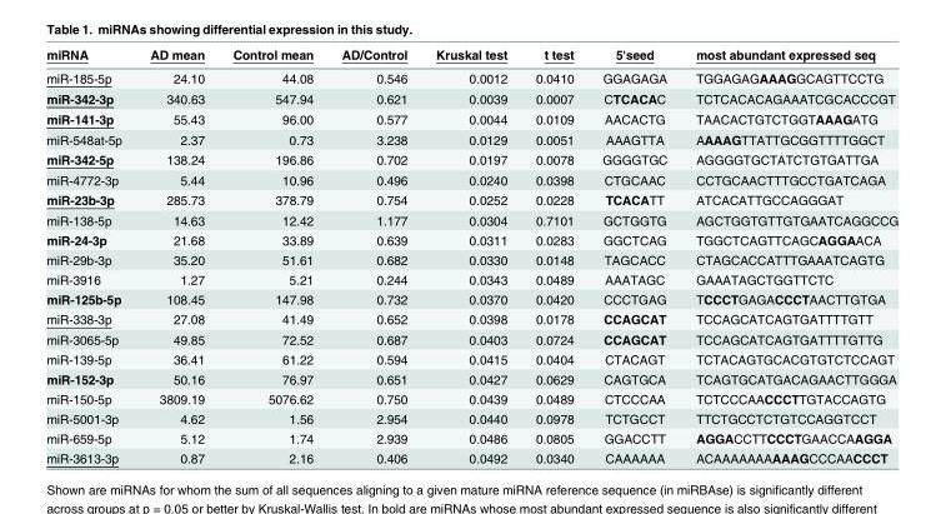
<table><thead><tr><td>miRNA</td><td>AD mean</td><td>Control mean</td><td>AD/Control</td><td>Kruskal test</td><td>t test</td><td>5&#x27;seed</td><td>most abundant expressed seq</td></tr></thead><tbody><tr><td>miR-185-5p</td><td>24.10</td><td>44.08</td><td>0.546</td><td>0.0012</td><td>0.0410</td><td>GGAGAGA</td><td>TGGAGAGAAAGGCAGTTCCTG</td></tr><tr><td>miR-342-3p</td><td>340.63</td><td>547.94</td><td>0.621</td><td>0.0039</td><td>0.0007</td><td>CTCACAC</td><td>TCTCACACAGAAATCGCACCCGT</td></tr><tr><td>miR-141-3p</td><td>55.43</td><td>96.00</td><td>0.577</td><td>0.0044</td><td>0.0109</td><td>AACACTG</td><td>TAACACTGTCTGGTAAAGATG</td></tr><tr><td>miR-548at-5p</td><td>2.37</td><td>0.73</td><td>3.238</td><td>0.0129</td><td>0.0051</td><td>AAAGTTA</td><td>AAAAGTTATTGCGGTTTTGGCT</td></tr><tr><td>miR-342-5p</td><td>138.24</td><td>196.86</td><td>0.702</td><td>0.0197</td><td>0.0078</td><td>GGGGTGC</td><td>AGGGGTGCTATCTGTGATTGA</td></tr><tr><td>miR-4772-3p</td><td>5.44</td><td>10.96</td><td>0.496</td><td>0.0240</td><td>0.0398</td><td>CTGCAAC</td><td>CCTGCAACTTTGCCTGATCAGA</td></tr><tr><td>miR-23b-3p</td><td>285.73</td><td>378.79</td><td>0.754</td><td>0.0252</td><td>0.0228</td><td>TCACATT</td><td>ATCACATTGCCAGGGAT</td></tr><tr><td>miR-138-5p</td><td>14.63</td><td>12.42</td><td>1.177</td><td>0.0304</td><td>0.7101</td><td>GCTGGTG</td><td>AGCTGGTGTTGTGAATCAGGCCG</td></tr><tr><td>miR-24-3p</td><td>21.68</td><td>33.89</td><td>0.639</td><td>0.0311</td><td>0.0283</td><td>GGCTCAG</td><td>TGGCTCAGTTCAGCAGGAACA</td></tr><tr><td>miR-29b-3p</td><td>35.20</td><td>51.61</td><td>0.682</td><td>0.0330</td><td>0.0148</td><td>TAGCACC</td><td>CTAGCACCATTTGAAATCAGTG</td></tr><tr><td>miR-3916</td><td>1.27</td><td>5.21</td><td>0.244</td><td>0.0343</td><td>0.0489</td><td>AAATAGC</td><td>GAAATAGCTGGTTCTC</td></tr><tr><td>miR-125b-5p</td><td>108.45</td><td>147.98</td><td>0.732</td><td>0.0370</td><td>0.0420</td><td>CCCTGAG</td><td>TCCCTGAGACCCTAACTTGTGA</td></tr><tr><td>miR-338-3p</td><td>27.08</td><td>41.49</td><td>0.652</td><td>0.0398</td><td>0.0178</td><td>CCAGCAT</td><td>TCCAGCATCAGTGATTTTGTT</td></tr><tr><td>miR-3065-5p</td><td>49.85</td><td>72.52</td><td>0.687</td><td>0.0403</td><td>0.0724</td><td>CCAGCAT</td><td>TCCAGCATCAGTGATTTTGTTG</td></tr><tr><td>miR-139-5p</td><td>36.41</td><td>61.22</td><td>0.594</td><td>0.0415</td><td>0.0404</td><td>CTACAGT</td><td>TCTACAGTGCACGTGTCTCCAGT</td></tr><tr><td>miR-152-3p</td><td>50.16</td><td>76.97</td><td>0.651</td><td>0.0427</td><td>0.0629</td><td>CAGTGCA</td><td>TCAGTGCATGACAGAACTTGGGA</td></tr><tr><td>miR-150-5p</td><td>3809.19</td><td>5076.62</td><td>0.750</td><td>0.0439</td><td>0.0489</td><td>CTCCCAA</td><td>TCTCCCAACCCTTGTACCAGTG</td></tr><tr><td>miR-5001-3p</td><td>4.62</td><td>1.56</td><td>2.954</td><td>0.0440</td><td>0.0978</td><td>TCTGCCT</td><td>TTCTGCCTCTGTCCAGGTCCT</td></tr><tr><td>miR-659-5p</td><td>5.12</td><td>1.74</td><td>2.939</td><td>0.0486</td><td>0.0805</td><td>GGACCTT</td><td>AGGACCTTCCCTGAACCAAGGA</td></tr><tr><td>miR-3613-3p</td><td>0.87</td><td>2.16</td><td>0.406</td><td>0.0492</td><td>0.0340</td><td>CAAAAAA</td><td>ACAAAAAAAAAAGCCCAACCCT</td></tr></tbody></table>